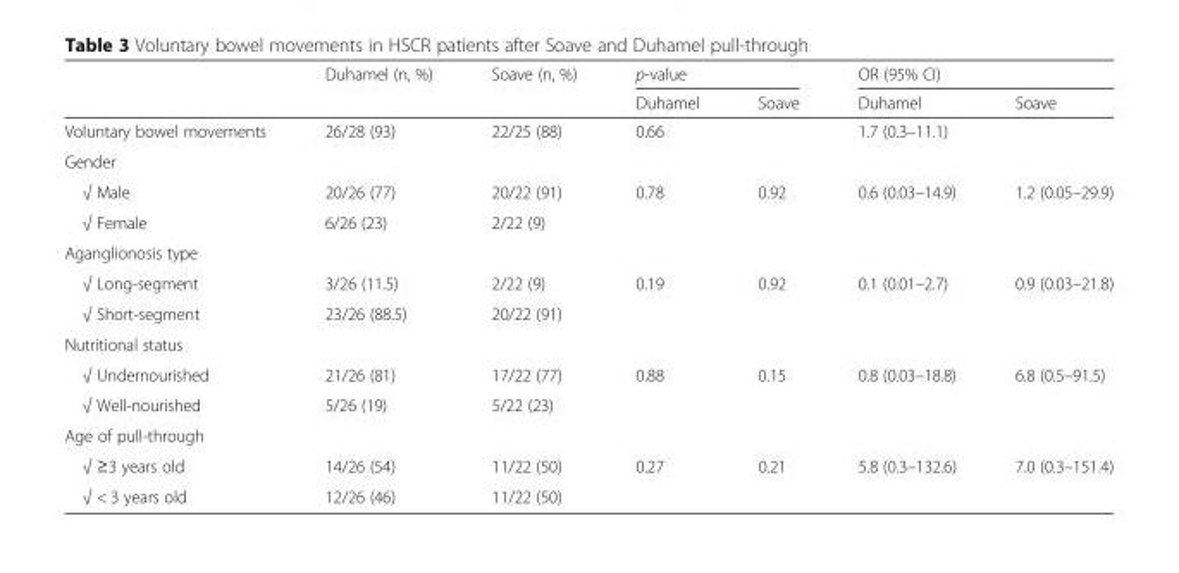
<table><thead><tr><td rowspan="2"></td><td rowspan="2">Duhamel (n, %)</td><td rowspan="2">Soave (n, %)</td><td colspan="2">p-value</td><td colspan="2">OR (95% CI)</td></tr><tr><td>Duhamel</td><td>Soave</td><td>Duhamel</td><td>Soave</td></tr></thead><tbody><tr><td>Voluntary bowel movements</td><td>26/28 (93)</td><td>22/25 (88)</td><td>0.66</td><td></td><td>1.7 (0.3–11.1)</td><td></td></tr><tr><td colspan="7">Gender</td></tr><tr><td>√ Male</td><td>20/26 (77)</td><td>20/22 (91)</td><td>0.78</td><td>0.92</td><td>0.6 (0.03–14.9)</td><td>1.2 (0.05–29.9)</td></tr><tr><td>√ Female</td><td>6/26 (23)</td><td>2/22 (9)</td><td></td><td></td><td></td><td></td></tr><tr><td colspan="7">Aganglionosis type</td></tr><tr><td>√ Long-segment</td><td>3/26 (11.5)</td><td>2/22 (9)</td><td>0.19</td><td>0.92</td><td>0.1 (0.01–2.7)</td><td>0.9 (0.03–21.8)</td></tr><tr><td>√ Short-segment</td><td>23/26 (88.5)</td><td>20/22 (91)</td><td></td><td></td><td></td><td></td></tr><tr><td colspan="7">Nutritional status</td></tr><tr><td>√ Undernourished</td><td>21/26 (81)</td><td>17/22 (77)</td><td>0.88</td><td>0.15</td><td>0.8 (0.03–18.8)</td><td>6.8 (0.5–91.5)</td></tr><tr><td>√ Well-nourished</td><td>5/26 (19)</td><td>5/22 (23)</td><td></td><td></td><td></td><td></td></tr><tr><td colspan="7">Age of pull-through</td></tr><tr><td>√ ≥3 years old</td><td>14/26 (54)</td><td>11/22 (50)</td><td>0.27</td><td>0.21</td><td>5.8 (0.3–132.6)</td><td>7.0 (0.3–151.4)</td></tr><tr><td>√ &lt; 3 years old</td><td>12/26 (46)</td><td>11/22 (50)</td><td></td><td></td><td></td><td></td></tr></tbody></table>